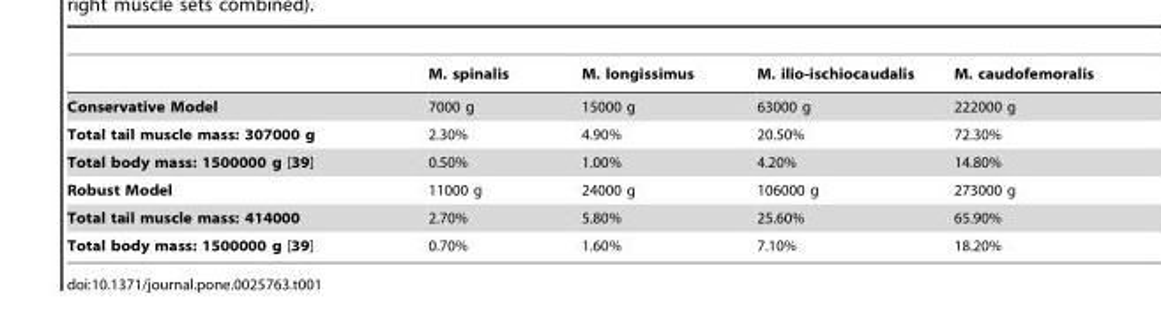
<table><thead><tr><td></td><td>M. spinalis</td><td>M. longissimus</td><td>M. ilio-ischiocaudalis</td><td>M. caudofemoralis</td></tr></thead><tbody><tr><td>Conservative Model</td><td>7000 g</td><td>15000 g</td><td>63000 g</td><td>222000 g</td></tr><tr><td>Total tail muscle mass: 307000 g</td><td>2.30%</td><td>4.90%</td><td>20.50%</td><td>72.30%</td></tr><tr><td>Total body mass: 1500000 g [39]</td><td>0.50%</td><td>1.00%</td><td>4.20%</td><td>14.80%</td></tr><tr><td>Robust Model</td><td>11000 g</td><td>24000 g</td><td>106000 g</td><td>273000 g</td></tr><tr><td>Total tail muscle mass: 414000</td><td>2.70%</td><td>5.80%</td><td>25.60%</td><td>65.90%</td></tr><tr><td>Total body mass: 1500000 g [39]</td><td>0.70%</td><td>1.60%</td><td>7.10%</td><td>18.20%</td></tr></tbody></table>